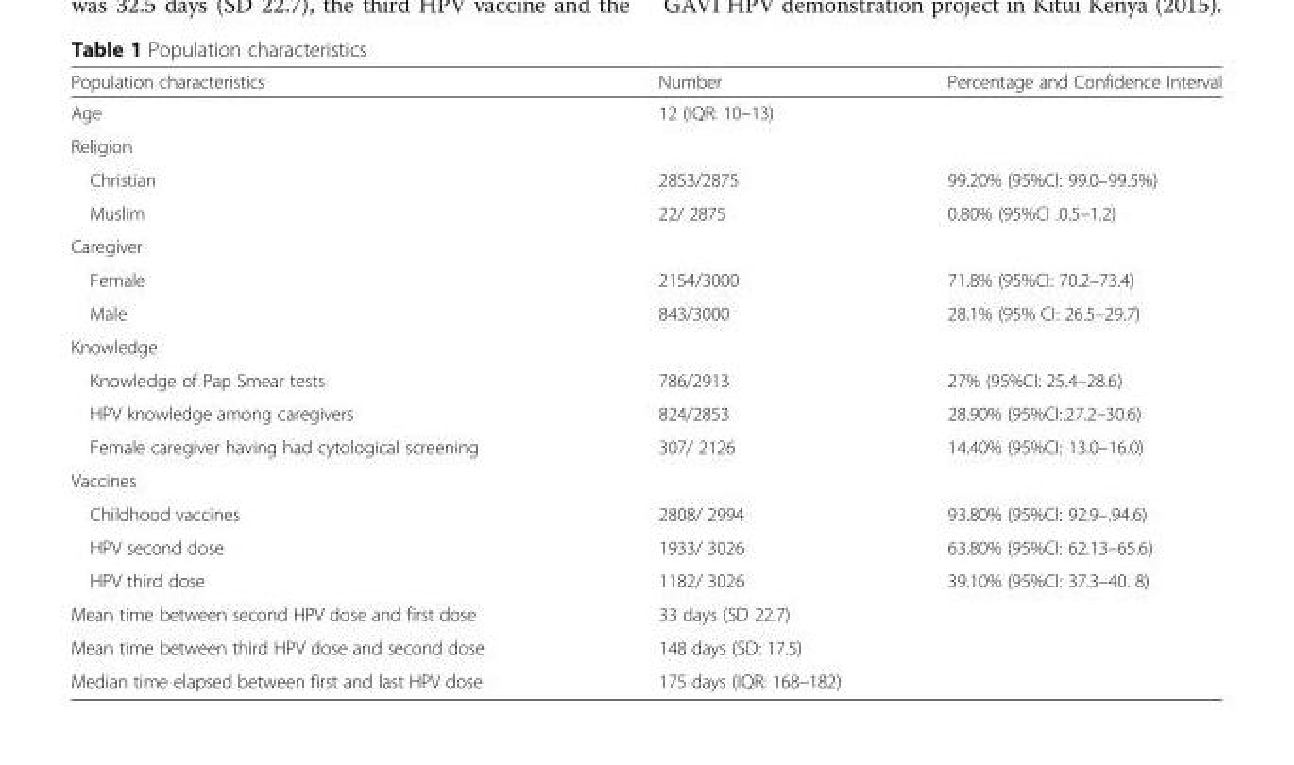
<table><thead><tr><td>Population characteristics</td><td>Number</td><td>Percentage and Confidence Interval</td></tr></thead><tbody><tr><td>Age</td><td>12 (IQR: 10–13)</td><td></td></tr><tr><td colspan="3">Religion</td></tr><tr><td>Christian</td><td>2853/2875</td><td>99.20% (95%CI: 99.0–99.5%)</td></tr><tr><td>Muslim</td><td>22/ 2875</td><td>0.80% (95%CI .0.5–1.2)</td></tr><tr><td colspan="3">Caregiver</td></tr><tr><td>Female</td><td>2154/3000</td><td>71.8% (95%CI: 70.2–73.4)</td></tr><tr><td>Male</td><td>843/3000</td><td>28.1% (95% CI: 26.5–29.7)</td></tr><tr><td colspan="3">Knowledge</td></tr><tr><td>Knowledge of Pap Smear tests</td><td>786/2913</td><td>27% (95%CI: 25.4–28.6)</td></tr><tr><td>HPV knowledge among caregivers</td><td>824/2853</td><td>28.90% (95%CI:.27.2–30.6)</td></tr><tr><td>Female caregiver having had cytological screening</td><td>307/ 2126</td><td>14.40% (95%CI: 13.0–16.0)</td></tr><tr><td colspan="3">Vaccines</td></tr><tr><td>Childhood vaccines</td><td>2808/ 2994</td><td>93.80% (95%CI: 92.9–.94.6)</td></tr><tr><td>HPV second dose</td><td>1933/ 3026</td><td>63.80% (95%CI: 62.13–65.6)</td></tr><tr><td>HPV third dose</td><td>1182/ 3026</td><td>39.10% (95%CI: 37.3–40. 8)</td></tr><tr><td>Mean time between second HPV dose and first dose</td><td colspan="2">33 days (SD 22.7)</td></tr><tr><td>Mean time between third HPV dose and second dose</td><td colspan="2">148 days (SD: 17.5)</td></tr><tr><td>Median time elapsed between first and last HPV dose</td><td colspan="2">175 days (IQR: 168–182)</td></tr></tbody></table>